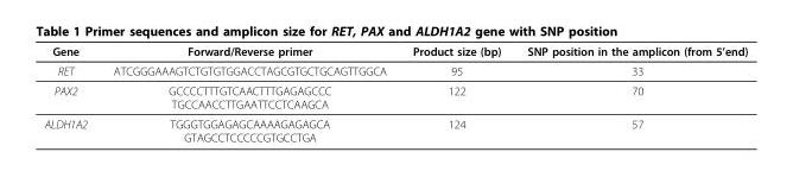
<table><thead><tr><td>Gene</td><td>Forward/Reverse primer</td><td>Product size (bp)</td><td>SNP position in the amplicon (from 5’end)</td></tr></thead><tbody><tr><td>RET</td><td>ATCGGGAAAGTCTGTGTGGACCTAGCGTGCTGCAGTTGGCA</td><td>95</td><td>33</td></tr><tr><td>PAX2</td><td>GCCCCTTTGTCAACTTTGAGAGCCC TGCCAACCTTGAATTCCTCAAGCA</td><td>122</td><td>70</td></tr><tr><td>ALDH1A2</td><td>TGGGTGGAGAGCAAAAGAGAGCA GTAGCCTCCCCCGTGCCTGA</td><td>124</td><td>57</td></tr></tbody></table>